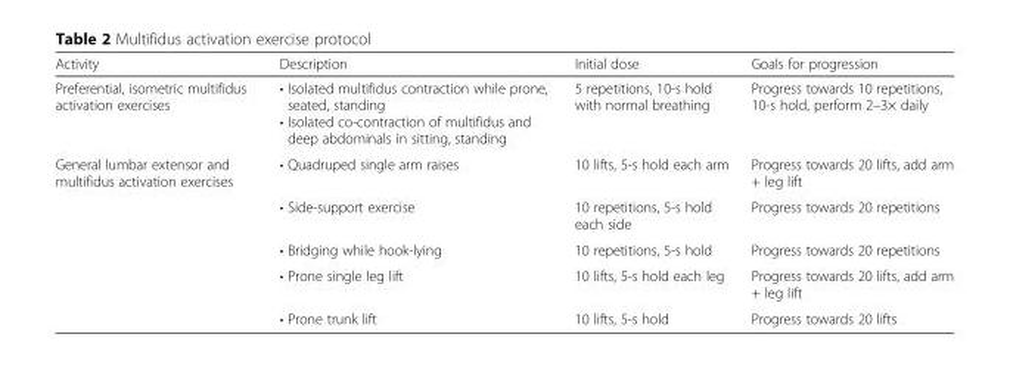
<table><thead><tr><td>Activity</td><td>Description</td><td>Initial dose</td><td>Goals for progression</td></tr></thead><tbody><tr><td>Preferential, isometric multifidus activation exercises</td><td>• Isolated multifidus contraction while prone, seated, standing • Isolated co-contraction of multifidus and deep abdominals in sitting, standing</td><td>5 repetitions, 10-s hold with normal breathing</td><td>Progress towards 10 repetitions, 10-s hold, perform 2–3× daily</td></tr><tr><td rowspan="5">General lumbar extensor and multifidus activation exercises</td><td>• Quadruped single arm raises</td><td>10 lifts, 5-s hold each arm</td><td>Progress towards 20 lifts, add arm + leg lift</td></tr><tr><td>• Side-support exercise</td><td>10 repetitions, 5-s hold each side</td><td>Progress towards 20 repetitions</td></tr><tr><td>• Bridging while hook-lying</td><td>10 repetitions, 5-s hold</td><td>Progress towards 20 repetitions</td></tr><tr><td>• Prone single leg lift</td><td>10 lifts, 5-s hold each leg</td><td>Progress towards 20 lifts, add arm + leg lift</td></tr><tr><td>• Prone trunk lift</td><td>10 lifts, 5-s hold</td><td>Progress towards 20 lifts</td></tr></tbody></table>